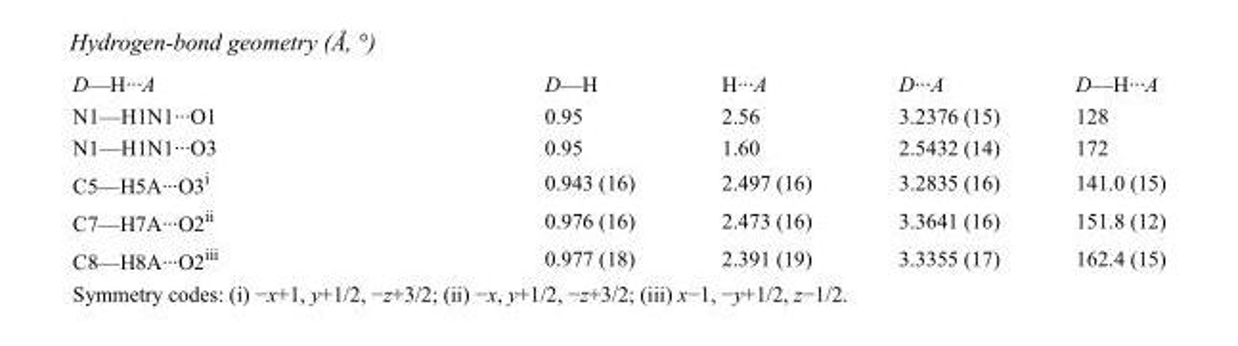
<table><tbody><tr><td>D—H···A</td><td>D—H</td><td>H···A</td><td>D···A</td><td>D—H···A</td></tr><tr><td>N1—H1N1···O1</td><td>0.95</td><td>2.56</td><td>3.2376 (15)</td><td>128</td></tr><tr><td>N1—H1N1···O3</td><td>0.95</td><td>1.60</td><td>2.5432 (14)</td><td>172</td></tr><tr><td>C5—H5A···O3<sup>i</sup></td><td>0.943 (16)</td><td>2.497 (16)</td><td>3.2835 (16)</td><td>141.0 (15)</td></tr><tr><td>C7—H7A···O2<sup>ii</sup></td><td>0.976 (16)</td><td>2.473 (16)</td><td>3.3641 (16)</td><td>151.8 (12)</td></tr><tr><td>C8—H8A···O2<sup>iii</sup></td><td>0.977 (18)</td><td>2.391 (19)</td><td>3.3355 (17)</td><td>162.4 (15)</td></tr></tbody></table>